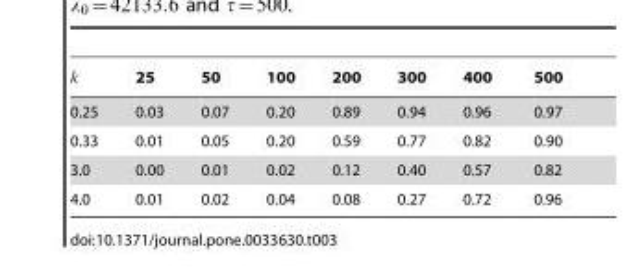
<table><thead><tr><td>k</td><td>25</td><td>50</td><td>100</td><td>200</td><td>300</td><td>400</td><td>500</td></tr></thead><tbody><tr><td>0.25</td><td>0.03</td><td>0.07</td><td>0.20</td><td>0.89</td><td>0.94</td><td>0.96</td><td>0.97</td></tr><tr><td>0.33</td><td>0.01</td><td>0.05</td><td>0.20</td><td>0.59</td><td>0.77</td><td>0.82</td><td>0.90</td></tr><tr><td>3.0</td><td>0.00</td><td>0.01</td><td>0.02</td><td>0.12</td><td>0.40</td><td>0.57</td><td>0.82</td></tr><tr><td>4.0</td><td>0.01</td><td>0.02</td><td>0.04</td><td>0.08</td><td>0.27</td><td>0.72</td><td>0.96</td></tr></tbody></table>